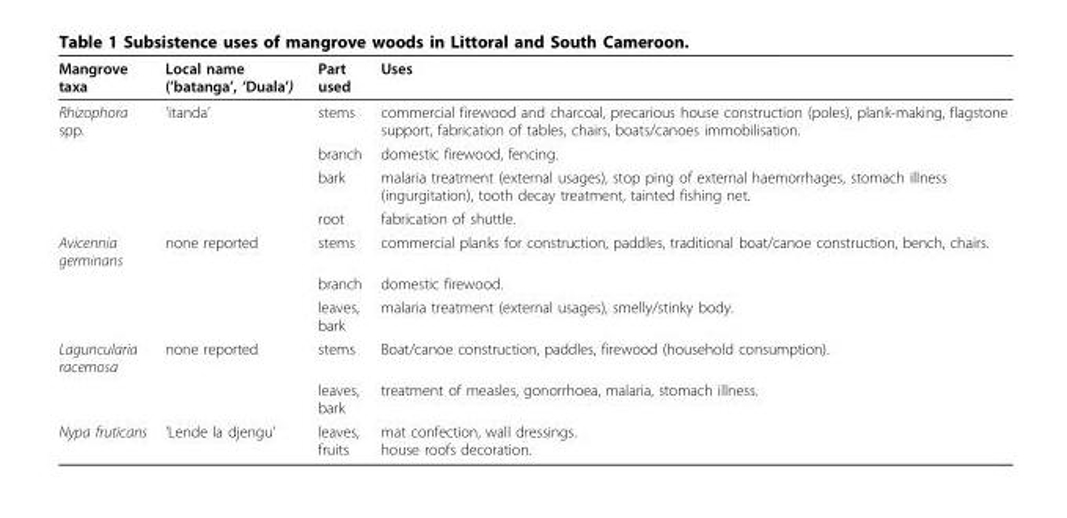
<table><thead><tr><td>Mangrove taxa</td><td>Local name (’batanga’, ‘Duala’)</td><td>Part used</td><td>Uses</td></tr></thead><tbody><tr><td rowspan="4">Rhizophora spp.</td><td>’itanda’</td><td>stems</td><td>commercial firewood and charcoal, precarious house construction (poles), plank-making, flagstone support, fabrication of tables, chairs, boats/canoes immobilisation.</td></tr><tr><td></td><td>branch</td><td>domestic firewood, fencing.</td></tr><tr><td></td><td>bark</td><td>malaria treatment (external usages), stop ping of external haemorrhages, stomach illness (ingurgitation), tooth decay treatment, tainted fishing net.</td></tr><tr><td></td><td>root</td><td>fabrication of shuttle.</td></tr><tr><td rowspan="3">Avicennia germinans</td><td>none reported</td><td>stems</td><td>commercial planks for construction, paddles, traditional boat/canoe construction, bench, chairs.</td></tr><tr><td></td><td>branch</td><td>domestic firewood.</td></tr><tr><td></td><td>leaves, bark</td><td>malaria treatment (external usages), smelly/stinky body.</td></tr><tr><td rowspan="2">Laguncularia racemosa</td><td>none reported</td><td>stems</td><td>Boat/canoe construction, paddles, firewood (household consumption).</td></tr><tr><td></td><td>leaves, bark</td><td>treatment of measles, gonorrhoea, malaria, stomach illness.</td></tr><tr><td>Nypa fruticans</td><td>’Lende la djengu’</td><td>leaves, fruits</td><td>mat confection, wall dressings. house roofs decoration.</td></tr></tbody></table>